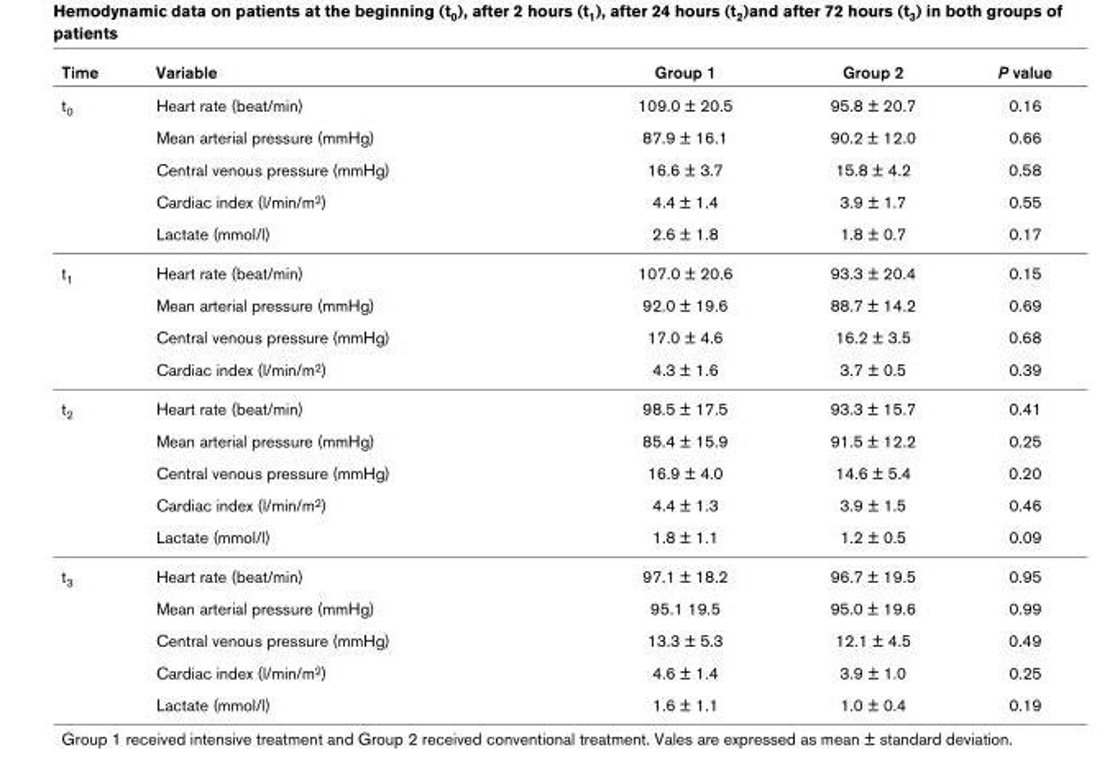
<table><thead><tr><td>Time</td><td>Variable</td><td>Group 1</td><td>Group 2</td><td>P value</td></tr></thead><tbody><tr><td rowspan="5">t<sub>0</sub></td><td>Heart rate (beat/min)</td><td>109.0 ± 20.5</td><td>95.8 ± 20.7</td><td>0.16</td></tr><tr><td>Mean arterial pressure (mmHg)</td><td>87.9 ± 16.1</td><td>90.2 ± 12.0</td><td>0.66</td></tr><tr><td>Central venous pressure (mmHg)</td><td>16.6 ± 3.7</td><td>15.8 ± 4.2</td><td>0.58</td></tr><tr><td>Cardiac index (l/min/m<sup>2</sup>)</td><td>4.4 ± 1.4</td><td>3.9 ± 1.7</td><td>0.55</td></tr><tr><td>Lactate (mmol/l)</td><td>2.6 ± 1.8</td><td>1.8 ± 0.7</td><td>0.17</td></tr><tr><td rowspan="4">t<sub>1</sub></td><td>Heart rate (beat/min)</td><td>107.0 ± 20.6</td><td>93.3 ± 20.4</td><td>0.15</td></tr><tr><td>Mean arterial pressure (mmHg)</td><td>92.0 ± 19.6</td><td>88.7 ± 14.2</td><td>0.69</td></tr><tr><td>Central venous pressure (mmHg)</td><td>17.0 ± 4.6</td><td>16.2 ± 3.5</td><td>0.68</td></tr><tr><td>Cardiac index (l/min/m<sup>2</sup>)</td><td>4.3 ± 1.6</td><td>3.7 ± 0.5</td><td>0.39</td></tr><tr><td rowspan="5">t<sub>2</sub></td><td>Heart rate (beat/min)</td><td>98.5 ± 17.5</td><td>93.3 ± 15.7</td><td>0.41</td></tr><tr><td>Mean arterial pressure (mmHg)</td><td>85.4 ± 15.9</td><td>91.5 ± 12.2</td><td>0.25</td></tr><tr><td>Central venous pressure (mmHg)</td><td>16.9 ± 4.0</td><td>14.6 ± 5.4</td><td>0.20</td></tr><tr><td>Cardiac index (l/min/m<sup>2</sup>)</td><td>4.4 ± 1.3</td><td>3.9 ± 1.5</td><td>0.46</td></tr><tr><td>Lactate (mmol/l)</td><td>1.8 ± 1.1</td><td>1.2 ± 0.5</td><td>0.09</td></tr><tr><td rowspan="5">t<sub>3</sub></td><td>Heart rate (beat/min)</td><td>97.1 ± 18.2</td><td>96.7 ± 19.5</td><td>0.95</td></tr><tr><td>Mean arterial pressure (mmHg)</td><td>95.1 19.5</td><td>95.0 ± 19.6</td><td>0.99</td></tr><tr><td>Central venous pressure (mmHg)</td><td>13.3 ± 5.3</td><td>12.1 ± 4.5</td><td>0.49</td></tr><tr><td>Cardiac index (l/min/m<sup>2</sup>)</td><td>4.6 ± 1.4</td><td>3.9 ± 1.0</td><td>0.25</td></tr><tr><td>Lactate (mmol/l)</td><td>1.6 ± 1.1</td><td>1.0 ± 0.4</td><td>0.19</td></tr></tbody></table>